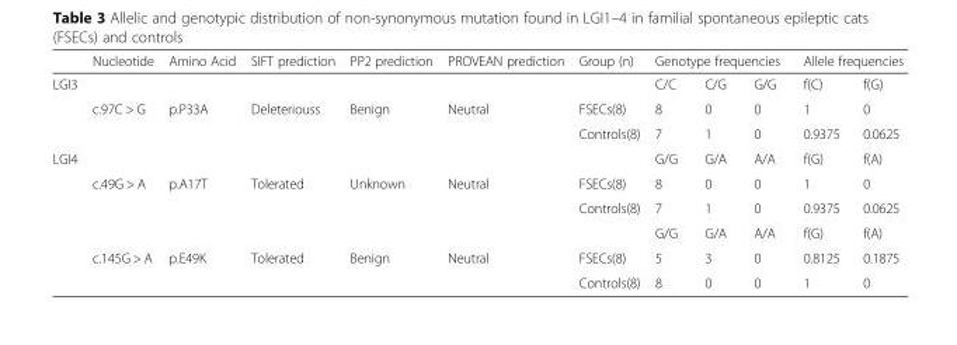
<table><thead><tr><td rowspan="2">LGI3</td><td rowspan="2">Nucleotide</td><td rowspan="2">Amino Acid</td><td rowspan="2">SIFT prediction</td><td rowspan="2">PP2 prediction</td><td rowspan="2">PROVEAN prediction</td><td rowspan="2">Group (n)</td><td colspan="3">Genotype frequencies</td><td colspan="2">Allele frequencies</td></tr><tr><td>C/C</td><td>C/G</td><td>G/G</td><td>f(C)</td><td>f(G)</td></tr></thead><tbody><tr><td></td><td>c.97C &gt; G</td><td>p.P33A</td><td>Deleteriouss</td><td>Benign</td><td>Neutral</td><td>FSECs(8)</td><td>8</td><td>0</td><td>0</td><td>1</td><td>0</td></tr><tr><td></td><td></td><td></td><td></td><td></td><td></td><td>Controls(8)</td><td>7</td><td>1</td><td>0</td><td>0.9375</td><td>0.0625</td></tr><tr><td rowspan="6">LGI4</td><td></td><td></td><td></td><td></td><td></td><td></td><td>G/G</td><td>G/A</td><td>A/A</td><td>f(G)</td><td>f(A)</td></tr><tr><td>c.49G &gt; A</td><td>p.A17T</td><td>Tolerated</td><td>Unknown</td><td>Neutral</td><td>FSECs(8)</td><td>8</td><td>0</td><td>0</td><td>1</td><td>0</td></tr><tr><td></td><td></td><td></td><td></td><td></td><td>Controls(8)</td><td>7</td><td>1</td><td>0</td><td>0.9375</td><td>0.0625</td></tr><tr><td></td><td></td><td></td><td></td><td></td><td></td><td>G/G</td><td>G/A</td><td>A/A</td><td>f(G)</td><td>f(A)</td></tr><tr><td>c.145G &gt; A</td><td>p.E49K</td><td>Tolerated</td><td>Benign</td><td>Neutral</td><td>FSECs(8)</td><td>5</td><td>3</td><td>0</td><td>0.8125</td><td>0.1875</td></tr><tr><td></td><td></td><td></td><td></td><td></td><td>Controls(8)</td><td>8</td><td>0</td><td>0</td><td>1</td><td>0</td></tr></tbody></table>